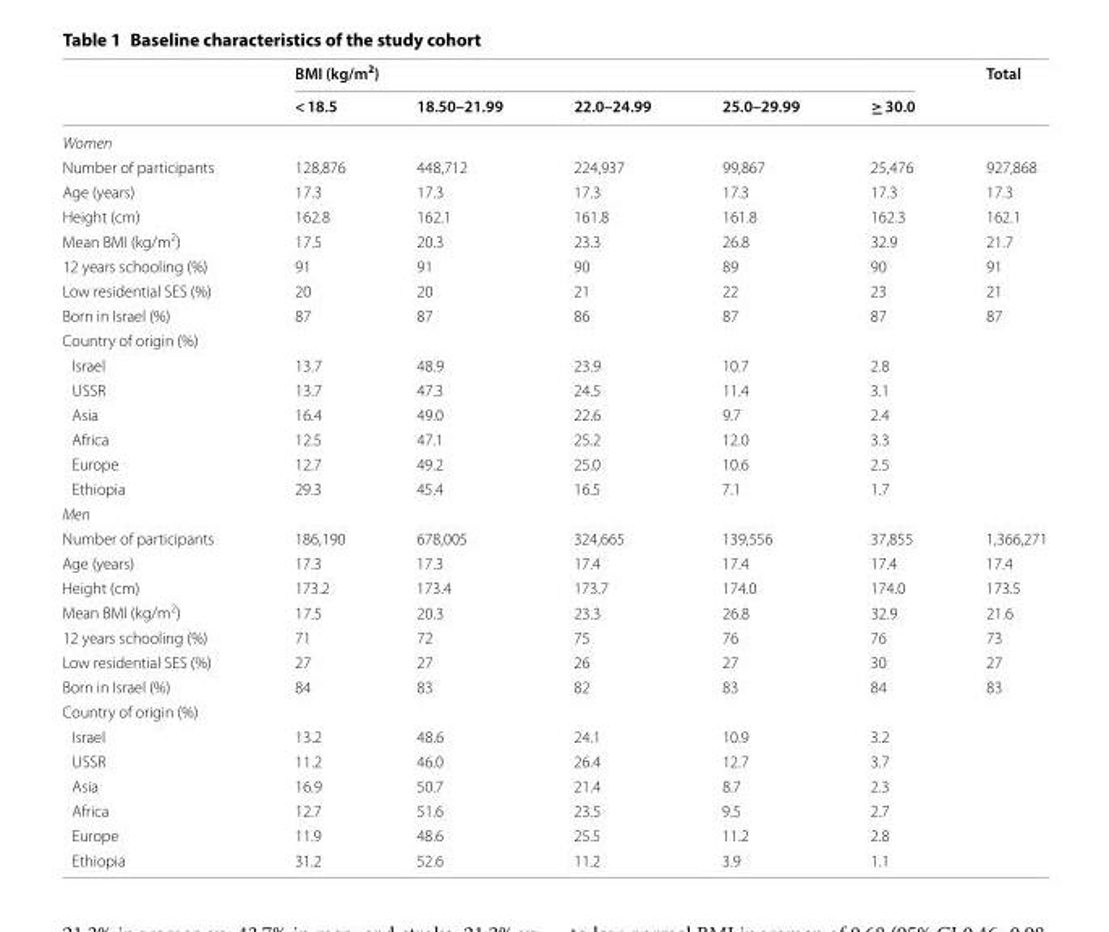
<table><thead><tr><td rowspan="2"></td><td colspan="5">BMI (kg/m<sup>2</sup>)</td><td rowspan="2">Total</td></tr><tr><td>&lt; 18.5</td><td>18.50–21.99</td><td>22.0–24.99</td><td>25.0–29.99</td><td>≥ 30.0</td></tr></thead><tbody><tr><td colspan="7">Women</td></tr><tr><td>Number of participants</td><td>128,876</td><td>448,712</td><td>224,937</td><td>99,867</td><td>25,476</td><td>927,868</td></tr><tr><td>Age (years)</td><td>17.3</td><td>17.3</td><td>17.3</td><td>17.3</td><td>17.3</td><td>17.3</td></tr><tr><td>Height (cm)</td><td>162.8</td><td>162.1</td><td>161.8</td><td>161.8</td><td>162.3</td><td>162.1</td></tr><tr><td>Mean BMI (kg/m<sup>2</sup>)</td><td>17.5</td><td>20.3</td><td>23.3</td><td>26.8</td><td>32.9</td><td>21.7</td></tr><tr><td>12 years schooling (%)</td><td>91</td><td>91</td><td>90</td><td>89</td><td>90</td><td>91</td></tr><tr><td>Low residential SES (%)</td><td>20</td><td>20</td><td>21</td><td>22</td><td>23</td><td>21</td></tr><tr><td>Born in Israel (%)</td><td>87</td><td>87</td><td>86</td><td>87</td><td>87</td><td>87</td></tr><tr><td colspan="7">Country of origin (%)</td></tr><tr><td>Israel</td><td>13.7</td><td>48.9</td><td>23.9</td><td>10.7</td><td>2.8</td><td></td></tr><tr><td>USSR</td><td>13.7</td><td>47.3</td><td>24.5</td><td>11.4</td><td>3.1</td><td></td></tr><tr><td>Asia</td><td>16.4</td><td>49.0</td><td>22.6</td><td>9.7</td><td>2.4</td><td></td></tr><tr><td>Africa</td><td>12.5</td><td>47.1</td><td>25.2</td><td>12.0</td><td>3.3</td><td></td></tr><tr><td>Europe</td><td>12.7</td><td>49.2</td><td>25.0</td><td>10.6</td><td>2.5</td><td></td></tr><tr><td>Ethiopia</td><td>29.3</td><td>45.4</td><td>16.5</td><td>7.1</td><td>1.7</td><td></td></tr><tr><td colspan="7">Men</td></tr><tr><td>Number of participants</td><td>186,190</td><td>678,005</td><td>324,665</td><td>139,556</td><td>37,855</td><td>1,366,271</td></tr><tr><td>Age (years)</td><td>17.3</td><td>17.3</td><td>17.4</td><td>17.4</td><td>17.4</td><td>17.4</td></tr><tr><td>Height (cm)</td><td>173.2</td><td>173.4</td><td>173.7</td><td>174.0</td><td>174.0</td><td>173.5</td></tr><tr><td>Mean BMI (kg/m<sup>2</sup>)</td><td>17.5</td><td>20.3</td><td>23.3</td><td>26.8</td><td>32.9</td><td>21.6</td></tr><tr><td>12 years schooling (%)</td><td>71</td><td>72</td><td>75</td><td>76</td><td>76</td><td>73</td></tr><tr><td>Low residential SES (%)</td><td>27</td><td>27</td><td>26</td><td>27</td><td>30</td><td>27</td></tr><tr><td>Born in Israel (%)</td><td>84</td><td>83</td><td>82</td><td>83</td><td>84</td><td>83</td></tr><tr><td colspan="7">Country of origin (%)</td></tr><tr><td>Israel</td><td>13.2</td><td>48.6</td><td>24.1</td><td>10.9</td><td>3.2</td><td></td></tr><tr><td>USSR</td><td>11.2</td><td>46.0</td><td>26.4</td><td>12.7</td><td>3.7</td><td></td></tr><tr><td>Asia</td><td>16.9</td><td>50.7</td><td>21.4</td><td>8.7</td><td>2.3</td><td></td></tr><tr><td>Africa</td><td>12.7</td><td>51.6</td><td>23.5</td><td>9.5</td><td>2.7</td><td></td></tr><tr><td>Europe</td><td>11.9</td><td>48.6</td><td>25.5</td><td>11.2</td><td>2.8</td><td></td></tr><tr><td>Ethiopia</td><td>31.2</td><td>52.6</td><td>11.2</td><td>3.9</td><td>1.1</td><td></td></tr></tbody></table>